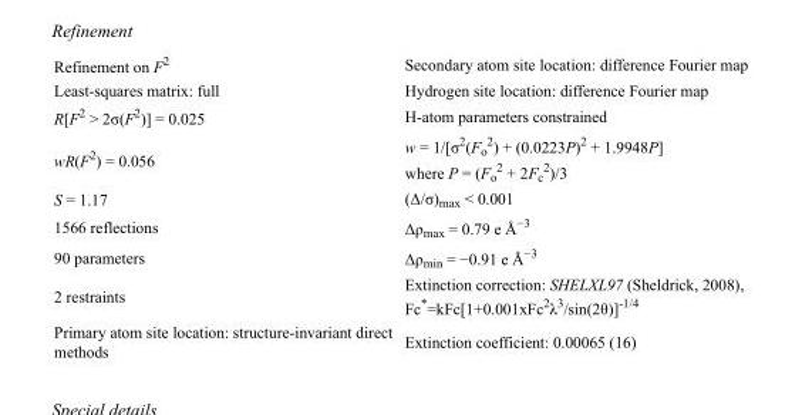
<table><tbody><tr><td>Refinement on F<sup>2</sup></td><td>Secondary atom site location: difference Fourier map</td></tr><tr><td>Least-squares matrix: full</td><td>Hydrogen site location: difference Fourier map</td></tr><tr><td>R[F<sup>2</sup> &gt; 2σ(F<sup>2</sup>)] = 0.025</td><td>H-atom parameters constrained</td></tr><tr><td>wR(F<sup>2</sup>) = 0.056</td><td>w = 1/[σ<sup>2</sup>(F<sub>o</sub> <sup>2</sup>) + (0.0223P)<sup>2</sup> + 1.9948P] where P = (F<sub>o</sub> <sup>2</sup> + 2F<sub>c</sub> <sup>2</sup>)/3</td></tr><tr><td>S = 1.17</td><td>(Δ/σ)<sub>max</sub> &lt; 0.001</td></tr><tr><td>1566 reflections</td><td>Δρ<sub>max</sub> = 0.79 e Å<sup>−3</sup></td></tr><tr><td>90 parameters</td><td>Δρ<sub>min</sub> = −0.91 e Å<sup>−3</sup></td></tr><tr><td>2 restraints</td><td>Extinction correction: SHELXL97 (Sheldrick, 2008), Fc*=kFc[1+0.001xFc<sup>2</sup>λ<sup>3</sup>/sin(2θ)]<sup>-1/4</sup></td></tr><tr><td>Primary atom site location: structure-invariant direct methods</td><td>Extinction coefficient: 0.00065 (16)</td></tr></tbody></table>